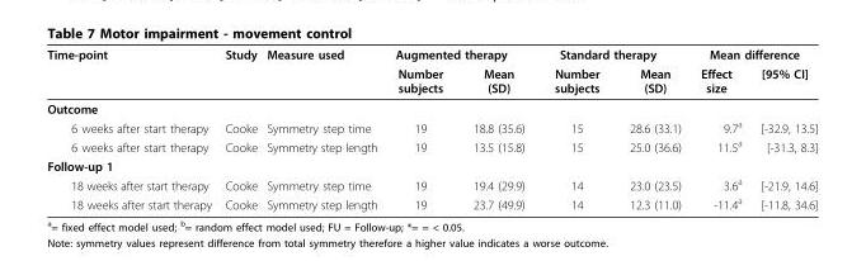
<table><thead><tr><td rowspan="2">Time-point</td><td rowspan="2">Study</td><td rowspan="2">Measure used</td><td colspan="2">Augmented therapy</td><td colspan="2">Standard therapy</td><td colspan="2">Mean difference</td></tr><tr><td>Number subjects</td><td>Mean (SD)</td><td>Number subjects</td><td>Mean (SD)</td><td>Effect size</td><td>[95% CI]</td></tr></thead><tbody><tr><td colspan="9">Outcome</td></tr><tr><td>6 weeks after start therapy</td><td>Cooke</td><td>Symmetry step time</td><td>19</td><td>18.8 (35.6)</td><td>15</td><td>28.6 (33.1)</td><td>9.7<sup>a</sup></td><td>[-32.9, 13.5]</td></tr><tr><td>6 weeks after start therapy</td><td>Cooke</td><td>Symmetry step length</td><td>19</td><td>13.5 (15.8)</td><td>15</td><td>25.0 (36.6)</td><td>11.5<sup>a</sup></td><td>[-31.3, 8.3]</td></tr><tr><td colspan="9">Follow-up 1</td></tr><tr><td>18 weeks after start therapy</td><td>Cooke</td><td>Symmetry step time</td><td>19</td><td>19.4 (29.9)</td><td>14</td><td>23.0 (23.5)</td><td>3.6<sup>a</sup></td><td>[-21.9, 14.6]</td></tr><tr><td>18 weeks after start therapy</td><td>Cooke</td><td>Symmetry step length</td><td>19</td><td>23.7 (49.9)</td><td>14</td><td>12.3 (11.0)</td><td>-11.4<sup>a</sup></td><td>[-11.8, 34.6]</td></tr></tbody></table>